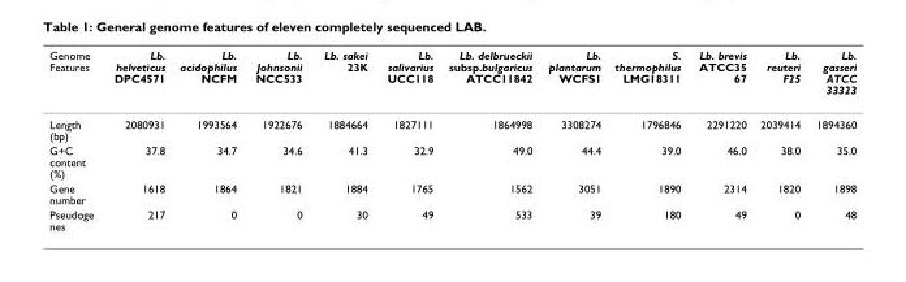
<table><thead><tr><td>Genome Features</td><td>Lb. helveticus DPC4571</td><td>Lb. acidophilus NCFM</td><td>Lb. Johnsonii NCC533</td><td>Lb. sakei 23K</td><td>Lb. salivarius UCC118</td><td>Lb. delbrueckii subsp.bulgaricus ATCC11842</td><td>Lb. plantarum WCFS1</td><td>S. thermophilus LMG18311</td><td>Lb. brevis ATCC35 67</td><td>Lb. reuteri F25</td><td>Lb. gasseri ATCC 33323</td></tr></thead><tbody><tr><td>Length (bp)</td><td>2080931</td><td>1993564</td><td>1922676</td><td>1884664</td><td>1827111</td><td>1864998</td><td>3308274</td><td>1796846</td><td>2291220</td><td>2039414</td><td>1894360</td></tr><tr><td>G+C content (%)</td><td>37.8</td><td>34.7</td><td>34.6</td><td>41.3</td><td>32.9</td><td>49.0</td><td>44.4</td><td>39.0</td><td>46.0</td><td>38.0</td><td>35.0</td></tr><tr><td>Gene number</td><td>1618</td><td>1864</td><td>1821</td><td>1884</td><td>1765</td><td>1562</td><td>3051</td><td>1890</td><td>2314</td><td>1820</td><td>1898</td></tr><tr><td>Pseudoge nes</td><td>217</td><td>0</td><td>0</td><td>30</td><td>49</td><td>533</td><td>39</td><td>180</td><td>49</td><td>0</td><td>48</td></tr></tbody></table>